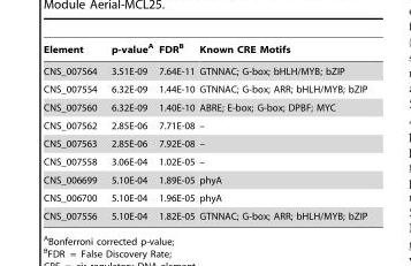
<table><thead><tr><td>Element</td><td>p-value<sup>A</sup></td><td>FDR<sup>B</sup></td><td>Known CRE Motifs</td></tr></thead><tbody><tr><td>CNS_007564</td><td>3.51E-09</td><td>7.64E-11</td><td>GTNNAC; G-box; bHLH/MYB; bZIP</td></tr><tr><td>CNS_007554</td><td>6.32E-09</td><td>1.44E-10</td><td>GTNNAC; G-box; ARR; bHLH/MYB; bZIP</td></tr><tr><td>CNS_007560</td><td>6.32E-09</td><td>1.40E-10</td><td>ABRE; E-box; G-box; DPBF; MYC</td></tr><tr><td>CNS_007562</td><td>2.85E-06</td><td>7.71E-08</td><td>–</td></tr><tr><td>CNS_007563</td><td>2.85E-06</td><td>7.92E-08</td><td>–</td></tr><tr><td>CNS_007558</td><td>3.06E-04</td><td>1.02E-05</td><td>–</td></tr><tr><td>CNS_006699</td><td>5.10E-04</td><td>1.89E-05</td><td>phyA</td></tr><tr><td>CNS_006700</td><td>5.10E-04</td><td>1.96E-05</td><td>phyA</td></tr><tr><td>CNS_007556</td><td>5.10E-04</td><td>1.82E-05</td><td>GTNNAC; G-box; ARR; bHLH/MYB; bZIP</td></tr></tbody></table>